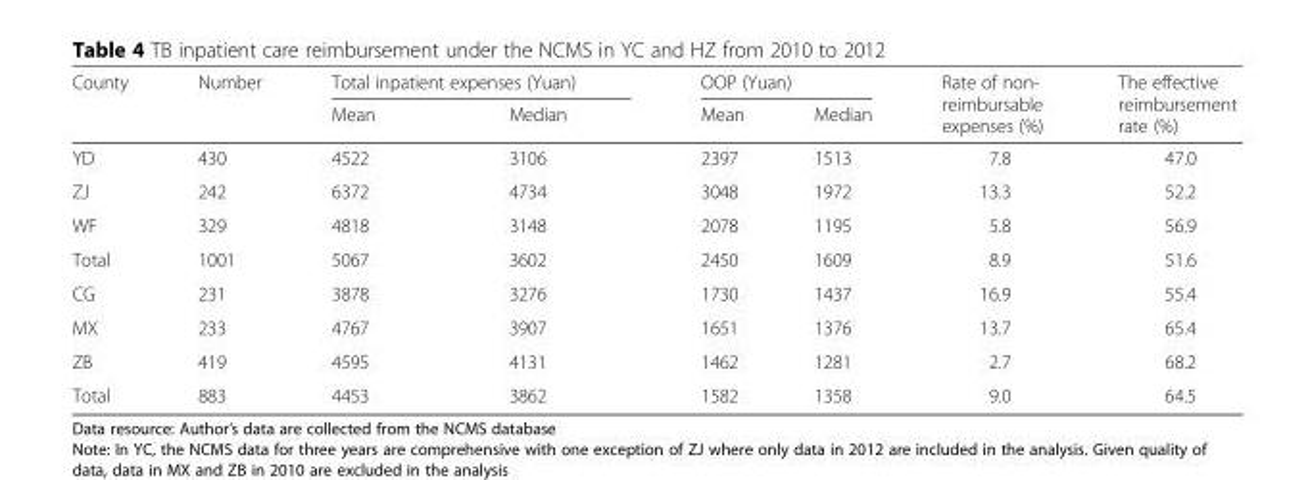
<table><thead><tr><td rowspan="2">County</td><td rowspan="2">Number</td><td colspan="2">Total inpatient expenses (Yuan)</td><td colspan="2">OOP (Yuan)</td><td rowspan="2">Rate of non- reimbursable expenses (%)</td><td rowspan="2">The effective reimbursement rate (%)</td></tr><tr><td>Mean</td><td>Median</td><td>Mean</td><td>Median</td></tr></thead><tbody><tr><td>YD</td><td>430</td><td>4522</td><td>3106</td><td>2397</td><td>1513</td><td>7.8</td><td>47.0</td></tr><tr><td>ZJ</td><td>242</td><td>6372</td><td>4734</td><td>3048</td><td>1972</td><td>13.3</td><td>52.2</td></tr><tr><td>WF</td><td>329</td><td>4818</td><td>3148</td><td>2078</td><td>1195</td><td>5.8</td><td>56.9</td></tr><tr><td>Total</td><td>1001</td><td>5067</td><td>3602</td><td>2450</td><td>1609</td><td>8.9</td><td>51.6</td></tr><tr><td>CG</td><td>231</td><td>3878</td><td>3276</td><td>1730</td><td>1437</td><td>16.9</td><td>55.4</td></tr><tr><td>MX</td><td>233</td><td>4767</td><td>3907</td><td>1651</td><td>1376</td><td>13.7</td><td>65.4</td></tr><tr><td>ZB</td><td>419</td><td>4595</td><td>4131</td><td>1462</td><td>1281</td><td>2.7</td><td>68.2</td></tr><tr><td>Total</td><td>883</td><td>4453</td><td>3862</td><td>1582</td><td>1358</td><td>9.0</td><td>64.5</td></tr></tbody></table>